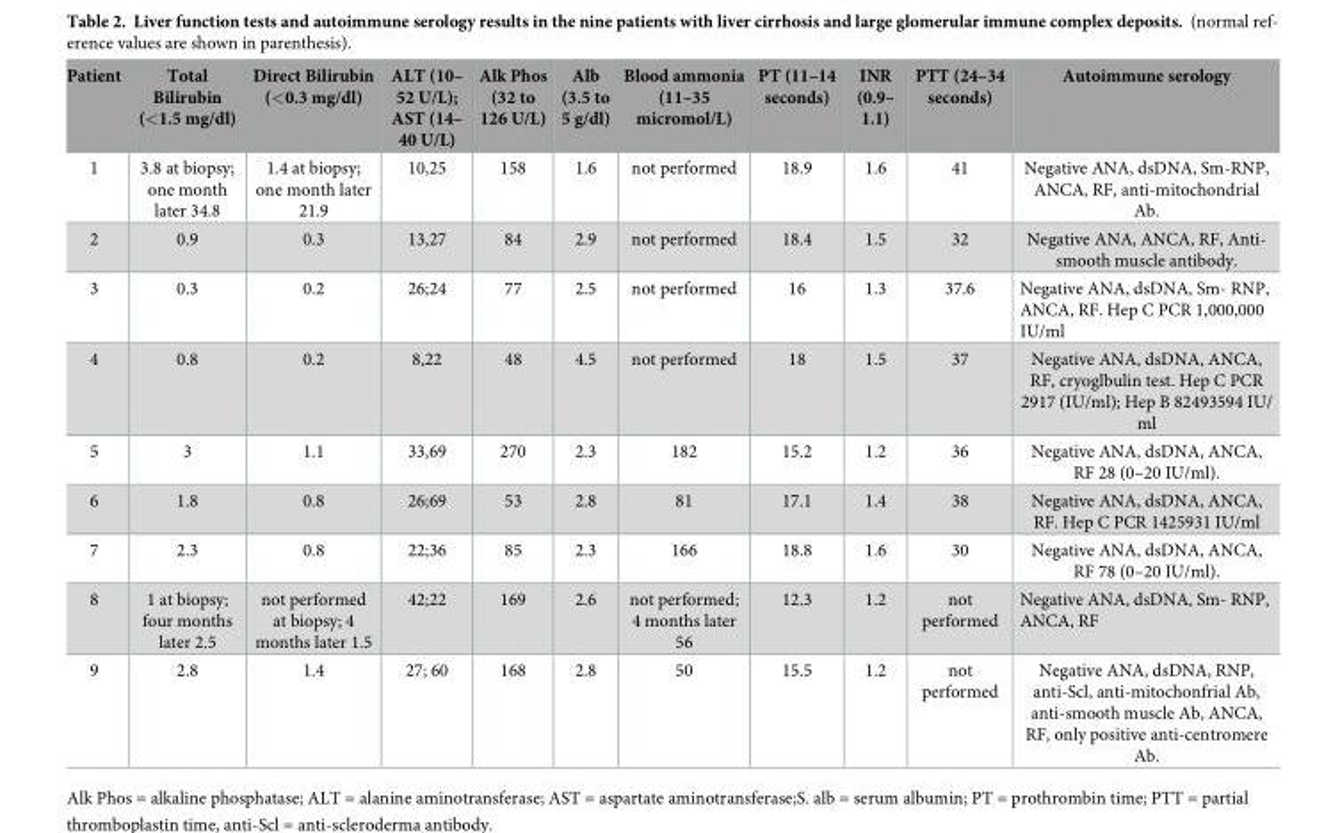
<table><thead><tr><td>Patient</td><td>Total Bilirubin (&lt;1.5 mg/dl)</td><td>Direct Bilirubin (&lt;0.3 mg/dl)</td><td>ALT (10– 52 U/L); AST (14– 40 U/L)</td><td>Alk Phos (32 to 126 U/L)</td><td>Alb (3.5 to 5 g/dl)</td><td>Blood ammonia (11–35 micromol/L)</td><td>PT (11–14 seconds)</td><td>INR (0.9– 1.1)</td><td>PTT (24–34 seconds)</td><td>Autoimmune serology</td></tr></thead><tbody><tr><td>1</td><td>3.8 at biopsy; one month later 34.8</td><td>1.4 at biopsy; one month later 21.9</td><td>10,25</td><td>158</td><td>1.6</td><td>not performed</td><td>18.9</td><td>1.6</td><td>41</td><td>Negative ANA, dsDNA, Sm-RNP, ANCA, RF, anti-mitochondrial Ab.</td></tr><tr><td>2</td><td>0.9</td><td>0.3</td><td>13,27</td><td>84</td><td>2.9</td><td>not performed</td><td>18.4</td><td>1.5</td><td>32</td><td>Negative ANA, ANCA, RF, Anti- smooth muscle antibody.</td></tr><tr><td>3</td><td>0.3</td><td>0.2</td><td>26;24</td><td>77</td><td>2.5</td><td>not performed</td><td>16</td><td>1.3</td><td>37.6</td><td>Negative ANA, dsDNA, Sm- RNP, ANCA, RF. Hep C PCR 1,000,000 IU/ml</td></tr><tr><td>4</td><td>0.8</td><td>0.2</td><td>8,22</td><td>48</td><td>4.5</td><td>not performed</td><td>18</td><td>1.5</td><td>37</td><td>Negative ANA, dsDNA, ANCA, RF, cryoglbulin test. Hep C PCR 2917 (IU/ml); Hep B 82493594 IU/ ml</td></tr><tr><td>5</td><td>3</td><td>1.1</td><td>33,69</td><td>270</td><td>2.3</td><td>182</td><td>15.2</td><td>1.2</td><td>36</td><td>Negative ANA, dsDNA, ANCA, RF 28 (0–20 IU/ml).</td></tr><tr><td>6</td><td>1.8</td><td>0.8</td><td>26;69</td><td>53</td><td>2.8</td><td>81</td><td>17.1</td><td>1.4</td><td>38</td><td>Negative ANA, dsDNA, ANCA, RF. Hep C PCR 1425931 IU/ml</td></tr><tr><td>7</td><td>2.3</td><td>0.8</td><td>22;36</td><td>85</td><td>2.3</td><td>166</td><td>18.8</td><td>1.6</td><td>30</td><td>Negative ANA, dsDNA, ANCA, RF 78 (0–20 IU/ml).</td></tr><tr><td>8</td><td>1 at biopsy; four months later 2.5</td><td>not performed at biopsy; 4 months later 1.5</td><td>42;22</td><td>169</td><td>2.6</td><td>not performed; 4 months later 56</td><td>12.3</td><td>1.2</td><td>not performed</td><td>Negative ANA, dsDNA, Sm- RNP, ANCA, RF</td></tr><tr><td>9</td><td>2.8</td><td>1.4</td><td>27; 60</td><td>168</td><td>2.8</td><td>50</td><td>15.5</td><td>1.2</td><td>not performed</td><td>Negative ANA, dsDNA, RNP, anti-Scl, anti-mitochonfrial Ab, anti-smooth muscle Ab, ANCA, RF, only positive anti-centromere Ab.</td></tr></tbody></table>